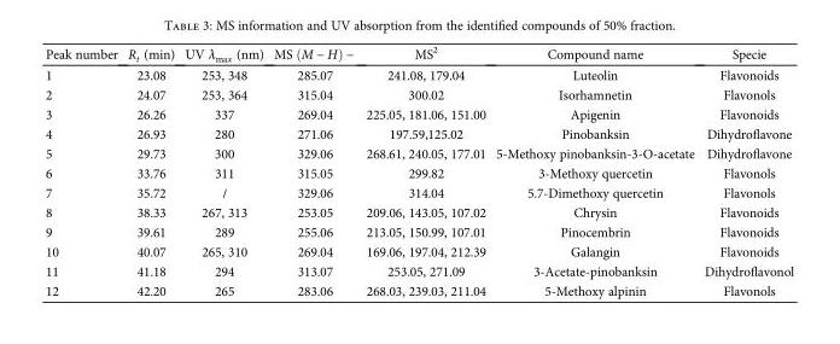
<table><thead><tr><td>Peak number</td><td>R<sub>t</sub> (min)</td><td>UV λ<sub>max</sub> (nm)</td><td>MS M − H −</td><td>MS<sup>2</sup></td><td>Compound name</td><td>Specie</td></tr></thead><tbody><tr><td>1</td><td>23.08</td><td>253, 348</td><td>285.07</td><td>241.08, 179.04</td><td>Luteolin</td><td>Flavonoids</td></tr><tr><td>2</td><td>24.07</td><td>253, 364</td><td>315.04</td><td>300.02</td><td>Isorhamnetin</td><td>Flavonols</td></tr><tr><td>3</td><td>26.26</td><td>337</td><td>269.04</td><td>225.05, 181.06, 151.00</td><td>Apigenin</td><td>Flavonoids</td></tr><tr><td>4</td><td>26.93</td><td>280</td><td>271.06</td><td>197.59,125.02</td><td>Pinobanksin</td><td>Dihydroflavone</td></tr><tr><td>5</td><td>29.73</td><td>300</td><td>329.06</td><td>268.61, 240.05, 177.01</td><td>5-Methoxy pinobanksin-3-O-acetate</td><td>Dihydroflavone</td></tr><tr><td>6</td><td>33.76</td><td>311</td><td>315.05</td><td>299.82</td><td>3-Methoxy quercetin</td><td>Flavonols</td></tr><tr><td>7</td><td>35.72</td><td>/</td><td>329.06</td><td>314.04</td><td>5.7-Dimethoxy quercetin</td><td>Flavonols</td></tr><tr><td>8</td><td>38.33</td><td>267, 313</td><td>253.05</td><td>209.06, 143.05, 107.02</td><td>Chrysin</td><td>Flavonoids</td></tr><tr><td>9</td><td>39.61</td><td>289</td><td>255.06</td><td>213.05, 150.99, 107.01</td><td>Pinocembrin</td><td>Flavonoids</td></tr><tr><td>10</td><td>40.07</td><td>265, 310</td><td>269.04</td><td>169.06, 197.04, 212.39</td><td>Galangin</td><td>Flavonoids</td></tr><tr><td>11</td><td>41.18</td><td>294</td><td>313.07</td><td>253.05, 271.09</td><td>3-Acetate-pinobanksin</td><td>Dihydroflavonol</td></tr><tr><td>12</td><td>42.20</td><td>265</td><td>283.06</td><td>268.03, 239.03, 211.04</td><td>5-Methoxy alpinin</td><td>Flavonols</td></tr></tbody></table>